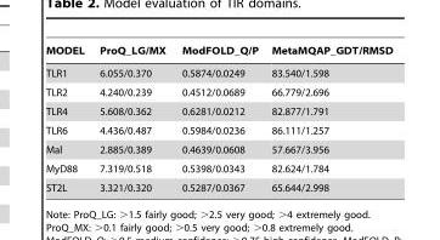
<table><thead><tr><td>MODEL</td><td>ProQ_LG/MX</td><td>ModFOLD_Q/P</td><td>MetaMQAP_GDT/RMSD</td></tr></thead><tbody><tr><td>TLR1</td><td>6.055/0.370</td><td>0.5874/0.0249</td><td>83.540/1.598</td></tr><tr><td>TLR2</td><td>4.240/0.239</td><td>0.4512/0.0689</td><td>66.779/2.696</td></tr><tr><td>TLR4</td><td>5.608/0.362</td><td>0.6281/0.0212</td><td>82.877/1.791</td></tr><tr><td>TLR6</td><td>4.436/0.487</td><td>0.5984/0.0236</td><td>86.111/1.257</td></tr><tr><td>Mal</td><td>2.885/0.389</td><td>0.4639/0.0608</td><td>57.667/3.956</td></tr><tr><td>MyD88</td><td>7.319/0.518</td><td>0.5398/0.0343</td><td>82.624/1.784</td></tr><tr><td>ST2L</td><td>3.321/0.320</td><td>0.5287/0.0367</td><td>65.644/2.998</td></tr></tbody></table>